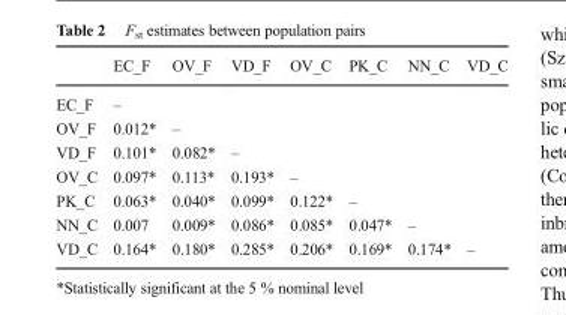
<table><thead><tr><td></td><td>EC_F</td><td>OV_F</td><td>VD_F</td><td>OV_C</td><td>PK_C</td><td>NN_C</td><td>VD_C</td></tr></thead><tbody><tr><td>EC_F</td><td>–</td><td></td><td></td><td></td><td></td><td></td><td></td></tr><tr><td>OV_F</td><td>0.012*</td><td>–</td><td></td><td></td><td></td><td></td><td></td></tr><tr><td>VD_F</td><td>0.101*</td><td>0.082*</td><td>–</td><td></td><td></td><td></td><td></td></tr><tr><td>OV_C</td><td>0.097*</td><td>0.113*</td><td>0.193*</td><td>–</td><td></td><td></td><td></td></tr><tr><td>PK_C</td><td>0.063*</td><td>0.040*</td><td>0.099*</td><td>0.122*</td><td>–</td><td></td><td></td></tr><tr><td>NN_C</td><td>0.007</td><td>0.009*</td><td>0.086*</td><td>0.085*</td><td>0.047*</td><td>–</td><td></td></tr><tr><td>VD_C</td><td>0.164*</td><td>0.180*</td><td>0.285*</td><td>0.206*</td><td>0.169*</td><td>0.174*</td><td>–</td></tr></tbody></table>